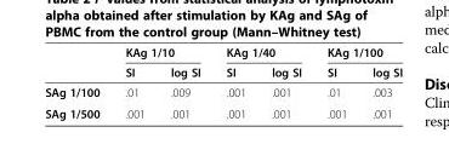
<table><thead><tr><td rowspan="2"></td><td colspan="2">KAg 1/10</td><td colspan="2">KAg 1/40</td><td colspan="2">KAg 1/100</td></tr><tr><td>SI</td><td>log SI</td><td>SI</td><td>log SI</td><td>SI</td><td>log SI</td></tr></thead><tbody><tr><td>SAg 1/100</td><td>.01</td><td>.009</td><td>.001</td><td>.001</td><td>.01</td><td>.003</td></tr><tr><td>SAg 1/500</td><td>.001</td><td>.001</td><td>.001</td><td>.001</td><td>.001</td><td>.001</td></tr></tbody></table>